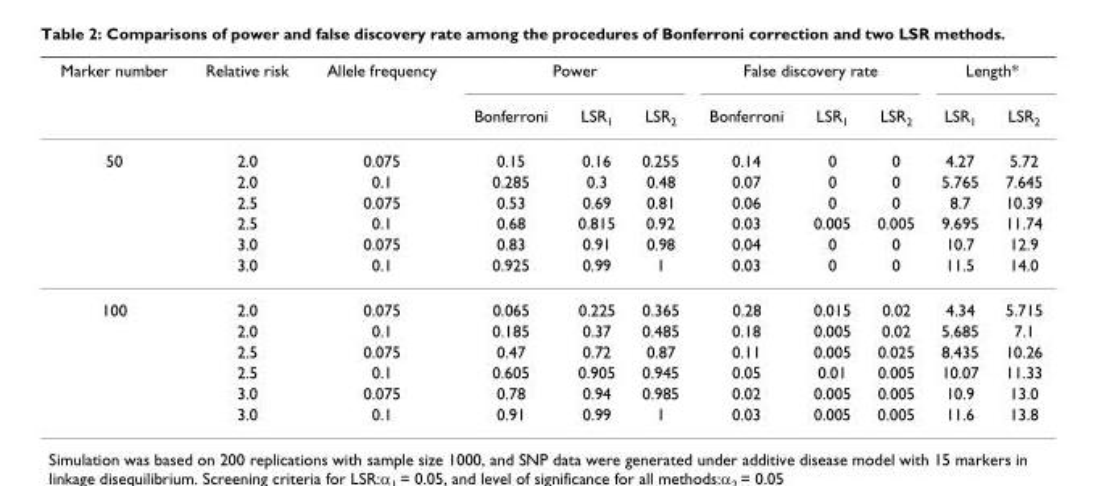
<table><thead><tr><td rowspan="2">Marker number</td><td rowspan="2">Relative risk</td><td rowspan="2">Allele frequency</td><td colspan="3">Power</td><td colspan="3">False discovery rate</td><td colspan="2">Length*</td></tr><tr><td>Bonferroni</td><td>LSR<sub>1</sub></td><td>LSR<sub>2</sub></td><td>Bonferroni</td><td>LSR<sub>1</sub></td><td>LSR<sub>2</sub></td><td>LSR<sub>1</sub></td><td>LSR<sub>2</sub></td></tr></thead><tbody><tr><td rowspan="6">50</td><td>2.0</td><td>0.075</td><td>0.15</td><td>0.16</td><td>0.255</td><td>0.14</td><td>0</td><td>0</td><td>4.27</td><td>5.72</td></tr><tr><td>2.0</td><td>0.1</td><td>0.285</td><td>0.3</td><td>0.48</td><td>0.07</td><td>0</td><td>0</td><td>5.765</td><td>7.645</td></tr><tr><td>2.5</td><td>0.075</td><td>0.53</td><td>0.69</td><td>0.81</td><td>0.06</td><td>0</td><td>0</td><td>8.7</td><td>10.39</td></tr><tr><td>2.5</td><td>0.1</td><td>0.68</td><td>0.815</td><td>0.92</td><td>0.03</td><td>0.005</td><td>0.005</td><td>9.695</td><td>11.74</td></tr><tr><td>3.0</td><td>0.075</td><td>0.83</td><td>0.91</td><td>0.98</td><td>0.04</td><td>0</td><td>0</td><td>10.7</td><td>12.9</td></tr><tr><td>3.0</td><td>0.1</td><td>0.925</td><td>0.99</td><td>1</td><td>0.03</td><td>0</td><td>0</td><td>11.5</td><td>14.0</td></tr><tr><td rowspan="6">100</td><td>2.0</td><td>0.075</td><td>0.065</td><td>0.225</td><td>0.365</td><td>0.28</td><td>0.015</td><td>0.02</td><td>4.34</td><td>5.715</td></tr><tr><td>2.0</td><td>0.1</td><td>0.185</td><td>0.37</td><td>0.485</td><td>0.18</td><td>0.005</td><td>0.02</td><td>5.685</td><td>7.1</td></tr><tr><td>2.5</td><td>0.075</td><td>0.47</td><td>0.72</td><td>0.87</td><td>0.11</td><td>0.005</td><td>0.025</td><td>8.435</td><td>10.26</td></tr><tr><td>2.5</td><td>0.1</td><td>0.605</td><td>0.905</td><td>0.945</td><td>0.05</td><td>0.01</td><td>0.005</td><td>10.07</td><td>11.33</td></tr><tr><td>3.0</td><td>0.075</td><td>0.78</td><td>0.94</td><td>0.985</td><td>0.02</td><td>0.005</td><td>0.005</td><td>10.9</td><td>13.0</td></tr><tr><td>3.0</td><td>0.1</td><td>0.91</td><td>0.99</td><td>1</td><td>0.03</td><td>0.005</td><td>0.005</td><td>11.6</td><td>13.8</td></tr></tbody></table>